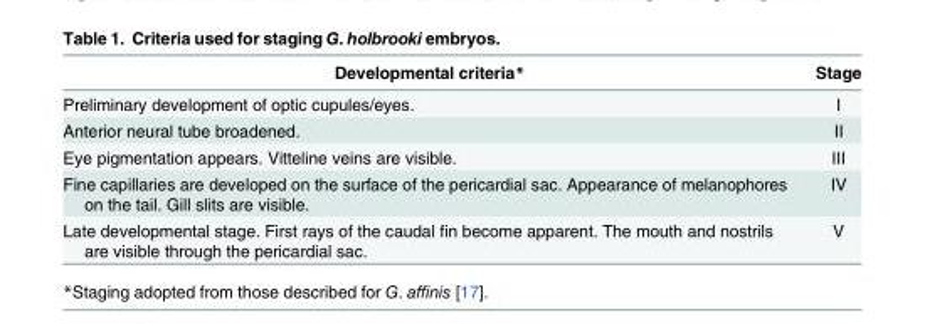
<table><thead><tr><td>Developmental criteria*</td><td>Stage</td></tr></thead><tbody><tr><td>Preliminary development of optic cupules/eyes.</td><td>I</td></tr><tr><td>Anterior neural tube broadened.</td><td>II</td></tr><tr><td>Eye pigmentation appears. Vitteline veins are visible.</td><td>III</td></tr><tr><td>Fine capillaries are developed on the surface of the pericardial sac. Appearance of melanophores on the tail. Gill slits are visible.</td><td>IV</td></tr><tr><td>Late developmental stage. First rays of the caudal fin become apparent. The mouth and nostrils are visible through the pericardial sac.</td><td>V</td></tr></tbody></table>